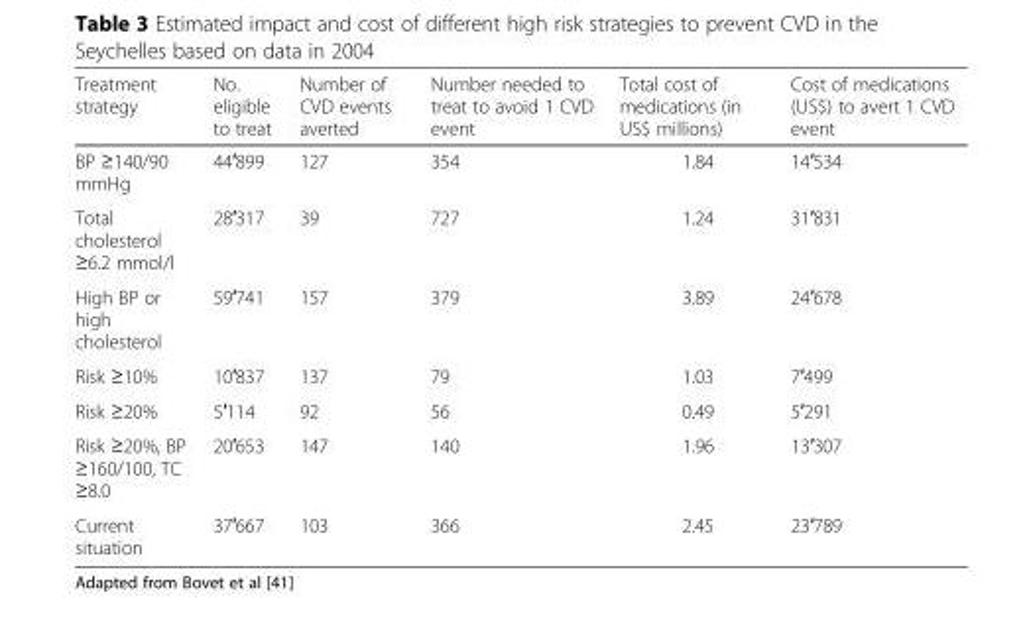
<table><thead><tr><td>Treatment strategy</td><td>No. eligible to treat</td><td>Number of CVD events averted</td><td>Number needed to treat to avoid 1 CVD event</td><td>Total cost of medications (in US$ millions)</td><td>Cost of medications (US$) to avert 1 CVD event</td></tr></thead><tbody><tr><td>BP ≥140/90 mmHg</td><td>44′899</td><td>127</td><td>354</td><td>1.84</td><td>14′534</td></tr><tr><td>Total cholesterol ≥6.2 mmol/l</td><td>28′317</td><td>39</td><td>727</td><td>1.24</td><td>31′831</td></tr><tr><td>High BP or high cholesterol</td><td>59′741</td><td>157</td><td>379</td><td>3.89</td><td>24′678</td></tr><tr><td>Risk ≥10%</td><td>10′837</td><td>137</td><td>79</td><td>1.03</td><td>7′499</td></tr><tr><td>Risk ≥20%</td><td>5′114</td><td>92</td><td>56</td><td>0.49</td><td>5′291</td></tr><tr><td>Risk ≥20%, BP ≥160/100, TC ≥8.0</td><td>20′653</td><td>147</td><td>140</td><td>1.96</td><td>13′307</td></tr><tr><td>Current situation</td><td>37′667</td><td>103</td><td>366</td><td>2.45</td><td>23′789</td></tr></tbody></table>